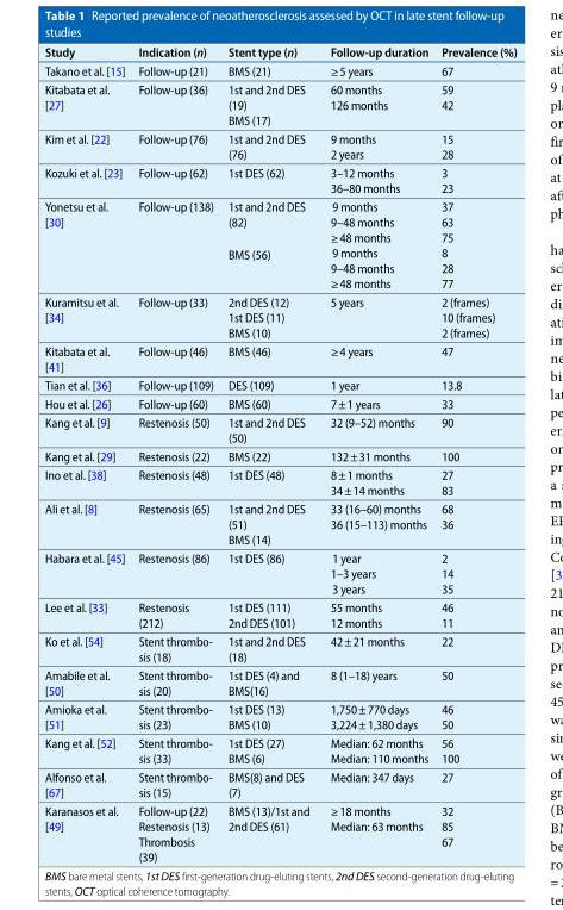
<table><thead><tr><td>Study</td><td>Indication (n)</td><td>Stent type (n)</td><td>Follow-up duration</td><td>Prevalence (%)</td></tr></thead><tbody><tr><td>Takano et al. [15]</td><td>Follow-up (21)</td><td>BMS (21)</td><td>≥ 5 years</td><td>67</td></tr><tr><td>Kitabata et al. [27]</td><td>Follow-up (36)</td><td>1st and 2nd DES (19) BMS (17)</td><td>60 months 126 months</td><td>59 42</td></tr><tr><td>Kim et al. [22]</td><td>Follow-up (76)</td><td>1st and 2nd DES (76)</td><td>9 months 2 years</td><td>15 28</td></tr><tr><td>Kozuki et al. [23]</td><td>Follow-up (62)</td><td>1st DES (62)</td><td>3–12 months 36–80 months</td><td>3 23</td></tr><tr><td>Yonetsu et al. [30]</td><td>Follow-up (138)</td><td>1st and 2nd DES (82) BMS (56)</td><td>9 months 9–48 months ≥ 48 months 9 months 9–48 months ≥ 48 months</td><td>37 63 75 8 28 77</td></tr><tr><td>Kuramitsu et al. [34]</td><td>Follow-up (33)</td><td>2nd DES (12) 1st DES (11) BMS (10)</td><td>5 years</td><td>2 (frames) 10 (frames) 2 (frames)</td></tr><tr><td>Kitabata et al. [41]</td><td>Follow-up (46)</td><td>BMS (46)</td><td>≥ 4 years</td><td>47</td></tr><tr><td>Tian et al. [36]</td><td>Follow-up (109)</td><td>DES (109)</td><td>1 year</td><td>13.8</td></tr><tr><td>Hou et al. [26]</td><td>Follow-up (60)</td><td>BMS (60)</td><td>7 ± 1 years</td><td>33</td></tr><tr><td>Kang et al. [9]</td><td>Restenosis (50)</td><td>1st and 2nd DES (50)</td><td>32 (9–52) months</td><td>90</td></tr><tr><td>Kang et al. [29]</td><td>Restenosis (22)</td><td>BMS (22)</td><td>132 ± 31 months</td><td>100</td></tr><tr><td>Ino et al. [38]</td><td>Restenosis (48)</td><td>1st DES (48)</td><td>8 ± 1 months 34 ± 14 months</td><td>27 83</td></tr><tr><td>Ali et al. [8]</td><td>Restenosis (65)</td><td>1st and 2nd DES (51) BMS (14)</td><td>33 (16–60) months 36 (15–113) months</td><td>68 36</td></tr><tr><td>Habara et al. [45]</td><td>Restenosis (86)</td><td>1st DES (86)</td><td>1 year 1–3 years 3 years</td><td>2 14 35</td></tr><tr><td>Lee et al. [33]</td><td>Restenosis (212)</td><td>1st DES (111) 2nd DES (101)</td><td>55 months 12 months</td><td>46 11</td></tr><tr><td>Ko et al. [54]</td><td>Stent thrombo- sis (18)</td><td>1st and 2nd DES (18)</td><td>42 ± 21 months</td><td>22</td></tr><tr><td>Amabile et al. [50]</td><td>Stent thrombo- sis (20)</td><td>1st DES (4) and BMS(16)</td><td>8 (1–18) years</td><td>50</td></tr><tr><td>Amioka et al. [51]</td><td>Stent thrombo- sis (23)</td><td>1st DES (13) BMS (10)</td><td>1,750 ± 770 days 3,224 ± 1,380 days</td><td>46 50</td></tr><tr><td>Kang et al. [52]</td><td>Stent thrombo- sis (33)</td><td>1st DES (27) BMS (6)</td><td>Median: 62 months Median: 110 months</td><td>56 100</td></tr><tr><td>Alfonso et al. [67]</td><td>Stent thrombo- sis (15)</td><td>BMS(8) and DES (7)</td><td>Median: 347 days</td><td>27</td></tr><tr><td>Karanasos et al. [49]</td><td>Follow-up (22) Restenosis (13) Thrombosis (39)</td><td>BMS (13)/1st and 2nd DES (61)</td><td>≥ 18 months Median: 63 months</td><td>32 85 67</td></tr></tbody></table>